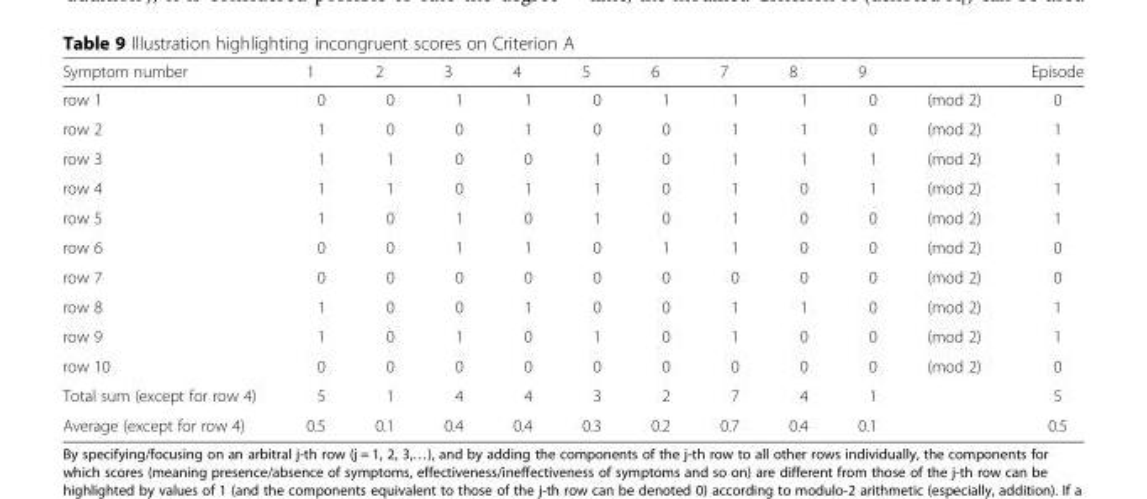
<table><thead><tr><td>Symptom number</td><td>1</td><td>2</td><td>3</td><td>4</td><td>5</td><td>6</td><td>7</td><td>8</td><td>9</td><td></td><td>Episode</td></tr></thead><tbody><tr><td>row 1</td><td>0</td><td>0</td><td>1</td><td>1</td><td>0</td><td>1</td><td>1</td><td>1</td><td>0</td><td>(mod 2)</td><td>0</td></tr><tr><td>row 2</td><td>1</td><td>0</td><td>0</td><td>1</td><td>0</td><td>0</td><td>1</td><td>1</td><td>0</td><td>(mod 2)</td><td>1</td></tr><tr><td>row 3</td><td>1</td><td>1</td><td>0</td><td>0</td><td>1</td><td>0</td><td>1</td><td>1</td><td>1</td><td>(mod 2)</td><td>1</td></tr><tr><td>row 4</td><td>1</td><td>1</td><td>0</td><td>1</td><td>1</td><td>0</td><td>1</td><td>0</td><td>1</td><td>(mod 2)</td><td>1</td></tr><tr><td>row 5</td><td>1</td><td>0</td><td>1</td><td>0</td><td>1</td><td>0</td><td>1</td><td>0</td><td>0</td><td>(mod 2)</td><td>1</td></tr><tr><td>row 6</td><td>0</td><td>0</td><td>1</td><td>1</td><td>0</td><td>1</td><td>1</td><td>0</td><td>0</td><td>(mod 2)</td><td>0</td></tr><tr><td>row 7</td><td>0</td><td>0</td><td>0</td><td>0</td><td>0</td><td>0</td><td>0</td><td>0</td><td>0</td><td>(mod 2)</td><td>0</td></tr><tr><td>row 8</td><td>1</td><td>0</td><td>0</td><td>1</td><td>0</td><td>0</td><td>1</td><td>1</td><td>0</td><td>(mod 2)</td><td>1</td></tr><tr><td>row 9</td><td>1</td><td>0</td><td>1</td><td>0</td><td>1</td><td>0</td><td>1</td><td>0</td><td>0</td><td>(mod 2)</td><td>1</td></tr><tr><td>row 10</td><td>0</td><td>0</td><td>0</td><td>0</td><td>0</td><td>0</td><td>0</td><td>0</td><td>0</td><td>(mod 2)</td><td>0</td></tr><tr><td>Total sum (except for row 4)</td><td>5</td><td>1</td><td>4</td><td>4</td><td>3</td><td>2</td><td>7</td><td>4</td><td>1</td><td></td><td>5</td></tr><tr><td>Average (except for row 4)</td><td>0.5</td><td>0.1</td><td>0.4</td><td>0.4</td><td>0.3</td><td>0.2</td><td>0.7</td><td>0.4</td><td>0.1</td><td></td><td>0.5</td></tr></tbody></table>